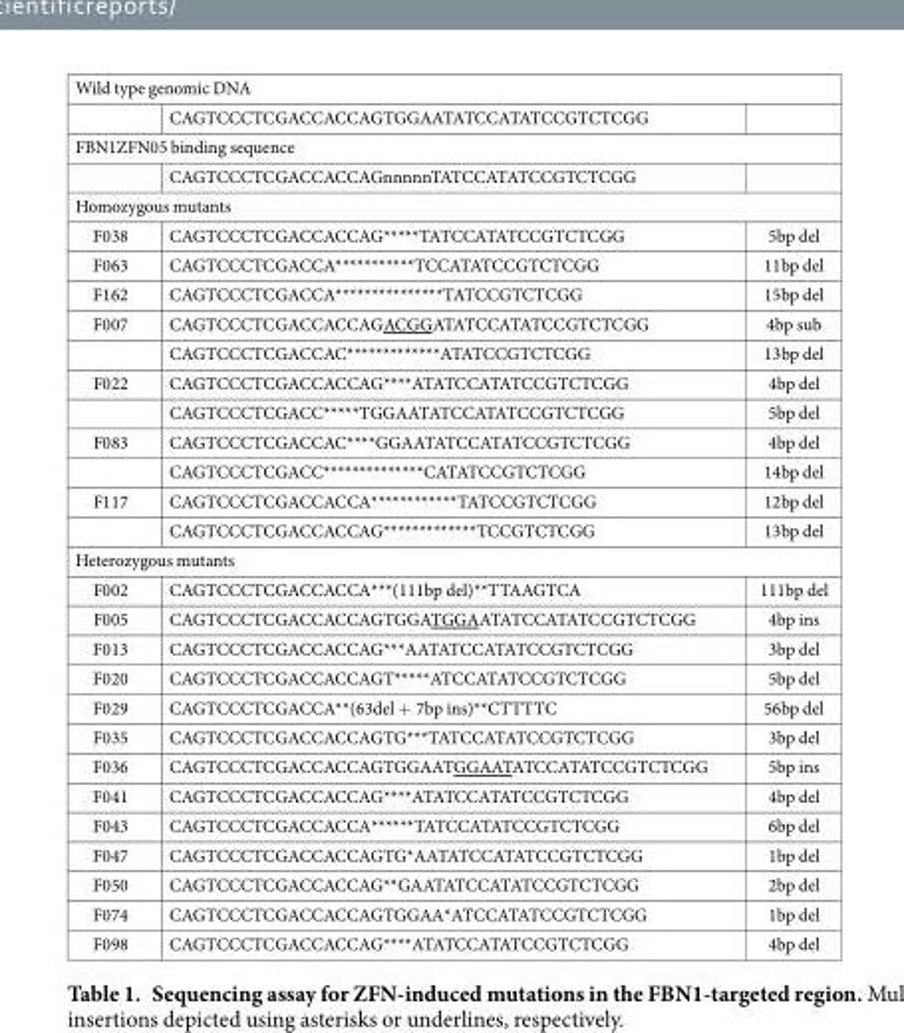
<table><tbody><tr><td colspan="3">Wild type genomic DNA</td></tr><tr><td></td><td>CAGTCCCTCGACCACCAGTGGAATATCCATATCCGTCTCGG</td><td></td></tr><tr><td colspan="3">FBN1ZFN05 binding sequence</td></tr><tr><td></td><td>CAGTCCCTCGACCACCAGnnnnnTATCCATATCCGTCTCGG</td><td></td></tr><tr><td colspan="3">Homozygous mutants</td></tr><tr><td>F038</td><td>CAGTCCCTCGACCACCAG*****TATCCATATCCGTCTCGG</td><td>5bp del</td></tr><tr><td>F063</td><td>CAGTCCCTCGACCA***********TCCATATCCGTCTCGG</td><td>11bp del</td></tr><tr><td>F162</td><td>CAGTCCCTCGACCA***************TATCCGTCTCGG</td><td>15bp del</td></tr><tr><td rowspan="2">F007</td><td>CAGTCCCTCGACCACCAGACGGATATCCATATCCGTCTCGG</td><td>4bp sub</td></tr><tr><td>CAGTCCCTCGACCAC*************ATATCCGTCTCGG</td><td>13bp del</td></tr><tr><td rowspan="2">F022</td><td>CAGTCCCTCGACCACCAG****ATATCCATATCCGTCTCGG</td><td>4bp del</td></tr><tr><td>CAGTCCCTCGACC*****TGGAATATCCATATCCGTCTCGG</td><td>5bp del</td></tr><tr><td rowspan="2">F083</td><td>CAGTCCCTCGACCAC****GGAATATCCATATCCGTCTCGG</td><td>4bp del</td></tr><tr><td>CAGTCCCTCGACC**************CATATCCGTCTCGG</td><td>14bp del</td></tr><tr><td rowspan="2">F117</td><td>CAGTCCCTCGACCACCA************TATCCGTCTCGG</td><td>12bp del</td></tr><tr><td>CAGTCCCTCGACCACCAG*************TCCGTCTCGG</td><td>13bp del</td></tr><tr><td colspan="3">Heterozygous mutants</td></tr><tr><td>F002</td><td>CAGTCCCTCGACCACCA***(111bp del)**TTAAGTCA</td><td>111bp del</td></tr><tr><td>F005</td><td>CAGTCCCTCGACCACCAGTGGATGGAATATCCATATCCGTCTCGG</td><td>4bp ins</td></tr><tr><td>F013</td><td>CAGTCCCTCGACCACCAG***AATATCCATATCCGTCTCGG</td><td>3bp del</td></tr><tr><td>F020</td><td>CAGTCCCTCGACCACCAGT*****ATCCATATCCGTCTCGG</td><td>5bp del</td></tr><tr><td>F029</td><td>CAGTCCCTCGACCA**(63del + 7bp ins)**CTTTTC</td><td>56bp del</td></tr><tr><td>F035</td><td>CAGTCCCTCGACCACCAGTG***TATCCATATCCGTCTCGG</td><td>3bp del</td></tr><tr><td>F036</td><td>CAGTCCCTCGACCACCAGTGGAATGGAATATCCATATCCGTCTCGG</td><td>5bp ins</td></tr><tr><td>F041</td><td>CAGTCCCTCGACCACCAG****ATATCCATATCCGTCTCGG</td><td>4bp del</td></tr><tr><td>F043</td><td>CAGTCCCTCGACCACCA******TATCCATATCCGTCTCGG</td><td>6bp del</td></tr><tr><td>F047</td><td>CAGTCCCTCGACCACCAGTG*AATATCCATATCCGTCTCGG</td><td>1bp del</td></tr><tr><td>F050</td><td>CAGTCCCTCGACCACCAG**GAATATCCATATCCGTCTCGG</td><td>2bp del</td></tr><tr><td>F074</td><td>CAGTCCCTCGACCACCAGTGGAA*ATCCATATCCGTCTCGG</td><td>1bp del</td></tr><tr><td>F098</td><td>CAGTCCCTCGACCACCAG****ATATCCATATCCGTCTCGG</td><td>4bp del</td></tr></tbody></table>